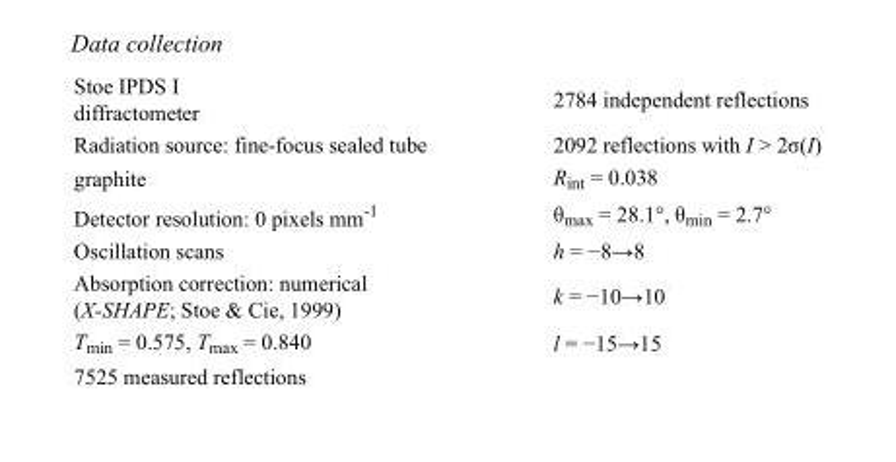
<table><tbody><tr><td>Stoe IPDS I diffractometer</td><td>2784 independent reflections</td></tr><tr><td>Radiation source: fine-focus sealed tube</td><td>2092 reflections with I &gt; 2σ(I)</td></tr><tr><td>graphite</td><td>R<sub>int</sub> = 0.038</td></tr><tr><td>Detector resolution: 0 pixels mm<sup>-1</sup></td><td>θ<sub>max</sub> = 28.1°, θ<sub>min</sub> = 2.7°</td></tr><tr><td>Oscillation scans</td><td>h = −8→8</td></tr><tr><td>Absorption correction: numerical (X-SHAPE; Stoe &amp; Cie, 1999)</td><td>k = −10→10</td></tr><tr><td>T<sub>min</sub> = 0.575, T<sub>max</sub> = 0.840</td><td>l = −15→15</td></tr><tr><td>7525 measured reflections</td><td></td></tr></tbody></table>